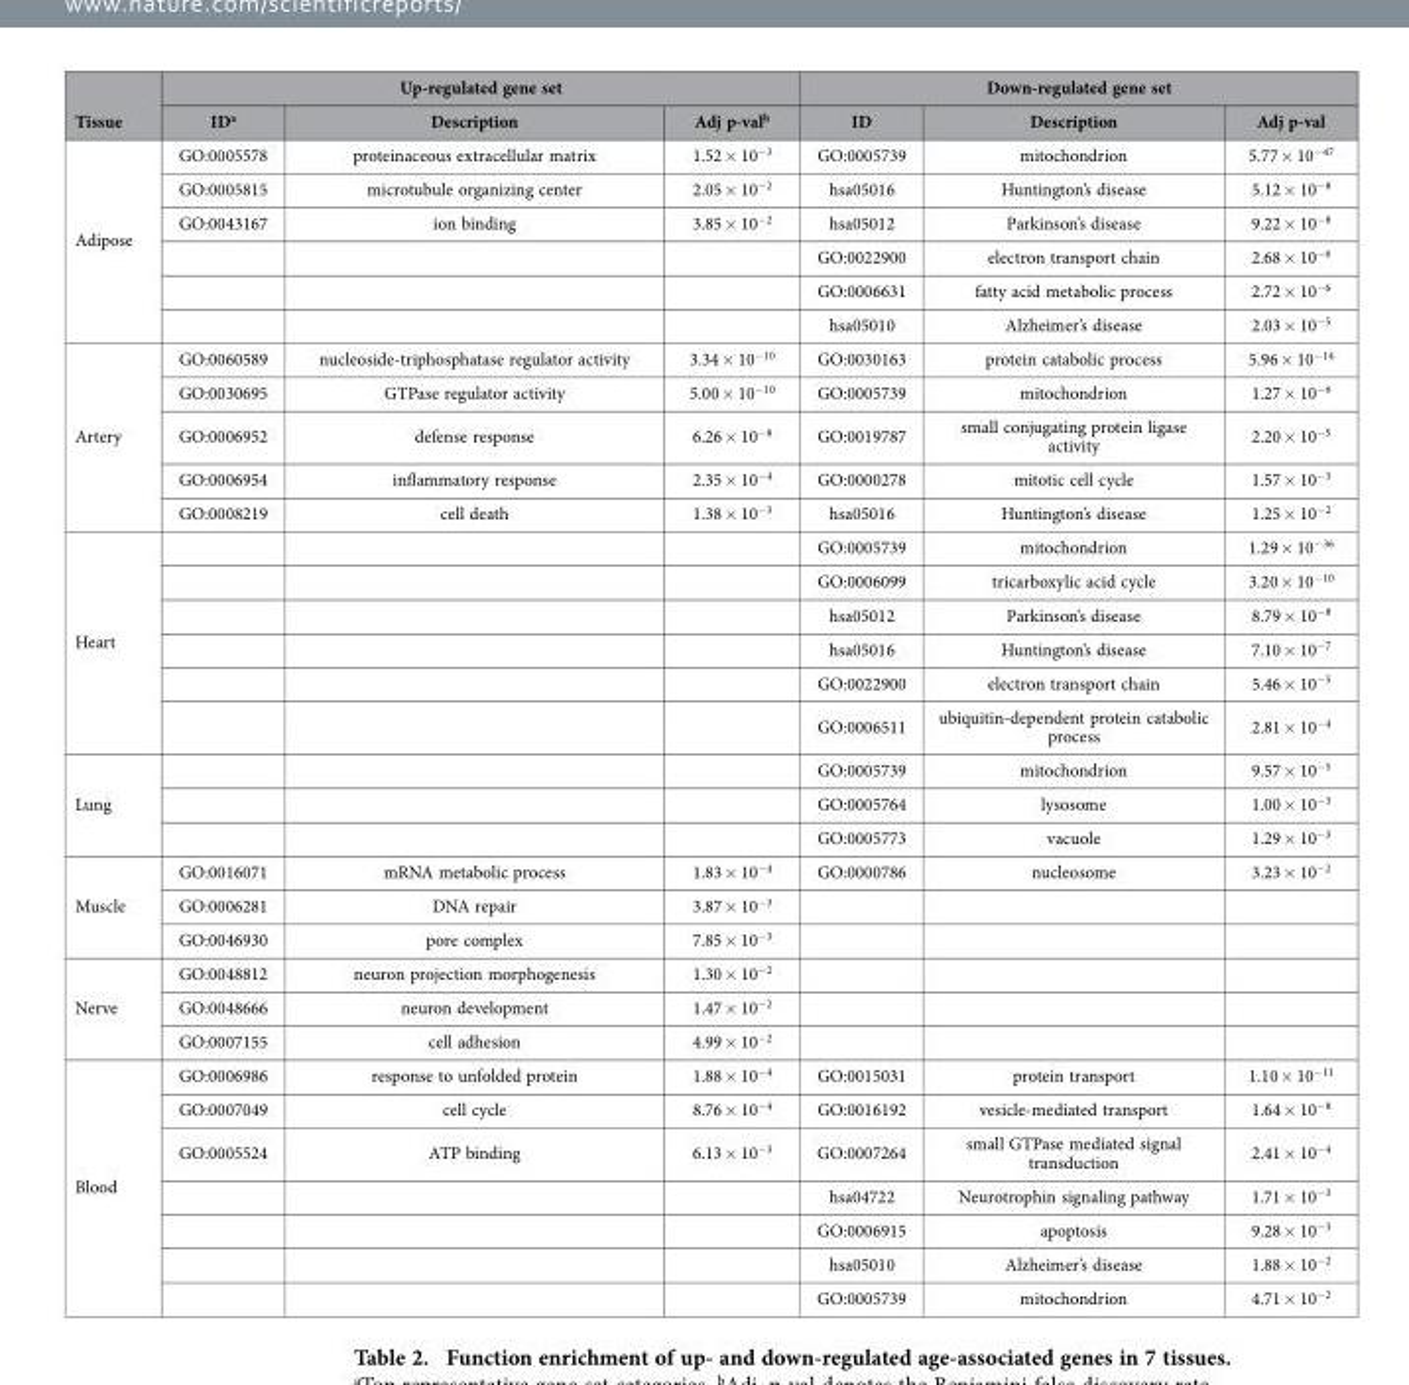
<table><thead><tr><td rowspan="2">Tissue</td><td colspan="3">Up-regulated gene set</td><td colspan="3">Down-regulated gene set</td></tr><tr><td>ID<sup>a</sup></td><td>Description</td><td>Adj p-val<sup>b</sup></td><td>ID</td><td>Description</td><td>Adj p-val</td></tr></thead><tbody><tr><td rowspan="6">Adipose</td><td>GO:0005578</td><td>proteinaceous extracellular matrix</td><td>1.52 × 10<sup>−3</sup></td><td>GO:0005739</td><td>mitochondrion</td><td>5.77 × 10<sup>−47</sup></td></tr><tr><td>GO:0005815</td><td>microtubule organizing center</td><td>2.05 × 10<sup>−2</sup></td><td>hsa05016</td><td>Huntington’s disease</td><td>5.12 × 10<sup>−8</sup></td></tr><tr><td>GO:0043167</td><td>ion binding</td><td>3.85 × 10<sup>−2</sup></td><td>hsa05012</td><td>Parkinson’s disease</td><td>9.22 × 10<sup>−8</sup></td></tr><tr><td></td><td></td><td></td><td>GO:0022900</td><td>electron transport chain</td><td>2.68 × 10<sup>−6</sup></td></tr><tr><td></td><td></td><td></td><td>GO:0006631</td><td>fatty acid metabolic process</td><td>2.72 × 10<sup>−6</sup></td></tr><tr><td></td><td></td><td></td><td>hsa05010</td><td>Alzheimer’s disease</td><td>2.03 × 10<sup>−5</sup></td></tr><tr><td rowspan="5">Artery</td><td>GO:0060589</td><td>nucleoside-triphosphatase regulator activity</td><td>3.34 × 10<sup>−10</sup></td><td>GO:0030163</td><td>protein catabolic process</td><td>5.96 × 10<sup>−14</sup></td></tr><tr><td>GO:0030695</td><td>GTPase regulator activity</td><td>5.00 × 10<sup>−10</sup></td><td>GO:0005739</td><td>mitochondrion</td><td>1.27 × 10<sup>−6</sup></td></tr><tr><td>GO:0006952</td><td>defense response</td><td>6.26 × 10<sup>−8</sup></td><td>GO:0019787</td><td>small conjugating protein ligase activity</td><td>2.20 × 10<sup>−5</sup></td></tr><tr><td>GO:0006954</td><td>inflammatory response</td><td>2.35 × 10<sup>−4</sup></td><td>GO:0000278</td><td>mitotic cell cycle</td><td>1.57 × 10<sup>−3</sup></td></tr><tr><td>GO:0008219</td><td>cell death</td><td>1.38 × 10<sup>−3</sup></td><td>hsa05016</td><td>Huntington’s disease</td><td>1.25 × 10<sup>−2</sup></td></tr><tr><td rowspan="6">Heart</td><td></td><td></td><td></td><td>GO:0005739</td><td>mitochondrion</td><td>1.29 × 10<sup>−36</sup></td></tr><tr><td></td><td></td><td></td><td>GO:0006099</td><td>tricarboxylic acid cycle</td><td>3.20 × 10<sup>−10</sup></td></tr><tr><td></td><td></td><td></td><td>hsa05012</td><td>Parkinson’s disease</td><td>8.79 × 10<sup>−8</sup></td></tr><tr><td></td><td></td><td></td><td>hsa05016</td><td>Huntington’s disease</td><td>7.10 × 10<sup>−7</sup></td></tr><tr><td></td><td></td><td></td><td>GO:0022900</td><td>electron transport chain</td><td>5.46 × 10<sup>−5</sup></td></tr><tr><td></td><td></td><td></td><td>GO:0006511</td><td>ubiquitin-dependent protein catabolic process</td><td>2.81 × 10<sup>−4</sup></td></tr><tr><td rowspan="3">Lung</td><td></td><td></td><td></td><td>GO:0005739</td><td>mitochondrion</td><td>9.57 × 10<sup>−5</sup></td></tr><tr><td></td><td></td><td></td><td>GO:0005764</td><td>lysosome</td><td>1.00 × 10<sup>−3</sup></td></tr><tr><td></td><td></td><td></td><td>GO:0005773</td><td>vacuole</td><td>1.29 × 10<sup>−3</sup></td></tr><tr><td rowspan="3">Muscle</td><td>GO:0016071</td><td>mRNA metabolic process</td><td>1.83 × 10<sup>−4</sup></td><td>GO:0000786</td><td>nucleosome</td><td>3.23 × 10<sup>−2</sup></td></tr><tr><td>GO:0006281</td><td>DNA repair</td><td>3.87 × 10<sup>−3</sup></td><td></td><td></td><td></td></tr><tr><td>GO:0046930</td><td>pore complex</td><td>7.85 × 10<sup>−3</sup></td><td></td><td></td><td></td></tr><tr><td rowspan="3">Nerve</td><td>GO:0048812</td><td>neuron projection morphogenesis</td><td>1.30 × 10<sup>−2</sup></td><td></td><td></td><td></td></tr><tr><td>GO:0048666</td><td>neuron development</td><td>1.47 × 10<sup>−2</sup></td><td></td><td></td><td></td></tr><tr><td>GO:0007155</td><td>cell adhesion</td><td>4.99 × 10<sup>−2</sup></td><td></td><td></td><td></td></tr><tr><td rowspan="7">Blood</td><td>GO:0006986</td><td>response to unfolded protein</td><td>1.88 × 10<sup>−4</sup></td><td>GO:0015031</td><td>protein transport</td><td>1.10 × 10<sup>−11</sup></td></tr><tr><td>GO:0007049</td><td>cell cycle</td><td>8.76 × 10<sup>−4</sup></td><td>GO:0016192</td><td>vesicle-mediated transport</td><td>1.64 × 10<sup>−8</sup></td></tr><tr><td>GO:0005524</td><td>ATP binding</td><td>6.13 × 10<sup>−3</sup></td><td>GO:0007264</td><td>small GTPase mediated signal transduction</td><td>2.41 × 10<sup>−4</sup></td></tr><tr><td></td><td></td><td></td><td>hsa04722</td><td>Neurotrophin signaling pathway</td><td>1.71 × 10<sup>−3</sup></td></tr><tr><td></td><td></td><td></td><td>GO:0006915</td><td>apoptosis</td><td>9.28 × 10<sup>−3</sup></td></tr><tr><td></td><td></td><td></td><td>hsa05010</td><td>Alzheimer’s disease</td><td>1.88 × 10<sup>−2</sup></td></tr><tr><td></td><td></td><td></td><td>GO:0005739</td><td>mitochondrion</td><td>4.71 × 10<sup>−2</sup></td></tr></tbody></table>